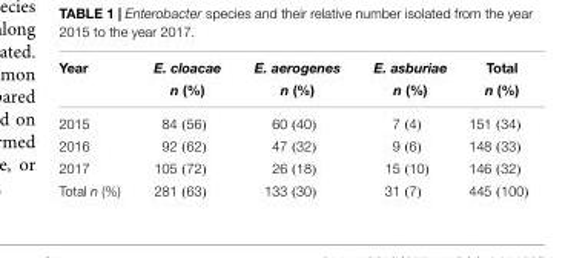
<table><thead><tr><td rowspan="2">Year</td><td rowspan="2">E. cloacae n (%)</td><td rowspan="2">E. aerogenes n (%)</td><td rowspan="2">E. asburiae n (%)</td><td rowspan="2">Total n (%)</td></tr><tr></tr></thead><tbody><tr><td>2015</td><td>84 (56)</td><td>60 (40)</td><td>7 (4)</td><td>151 (34)</td></tr><tr><td>2016</td><td>92 (62)</td><td>47 (32)</td><td>9 (6)</td><td>148 (33)</td></tr><tr><td>2017</td><td>105 (72)</td><td>26 (18)</td><td>15 (10)</td><td>146 (32)</td></tr><tr><td>Total n (%)</td><td>281 (63)</td><td>133 (30)</td><td>31 (7)</td><td>445 (100)</td></tr></tbody></table>